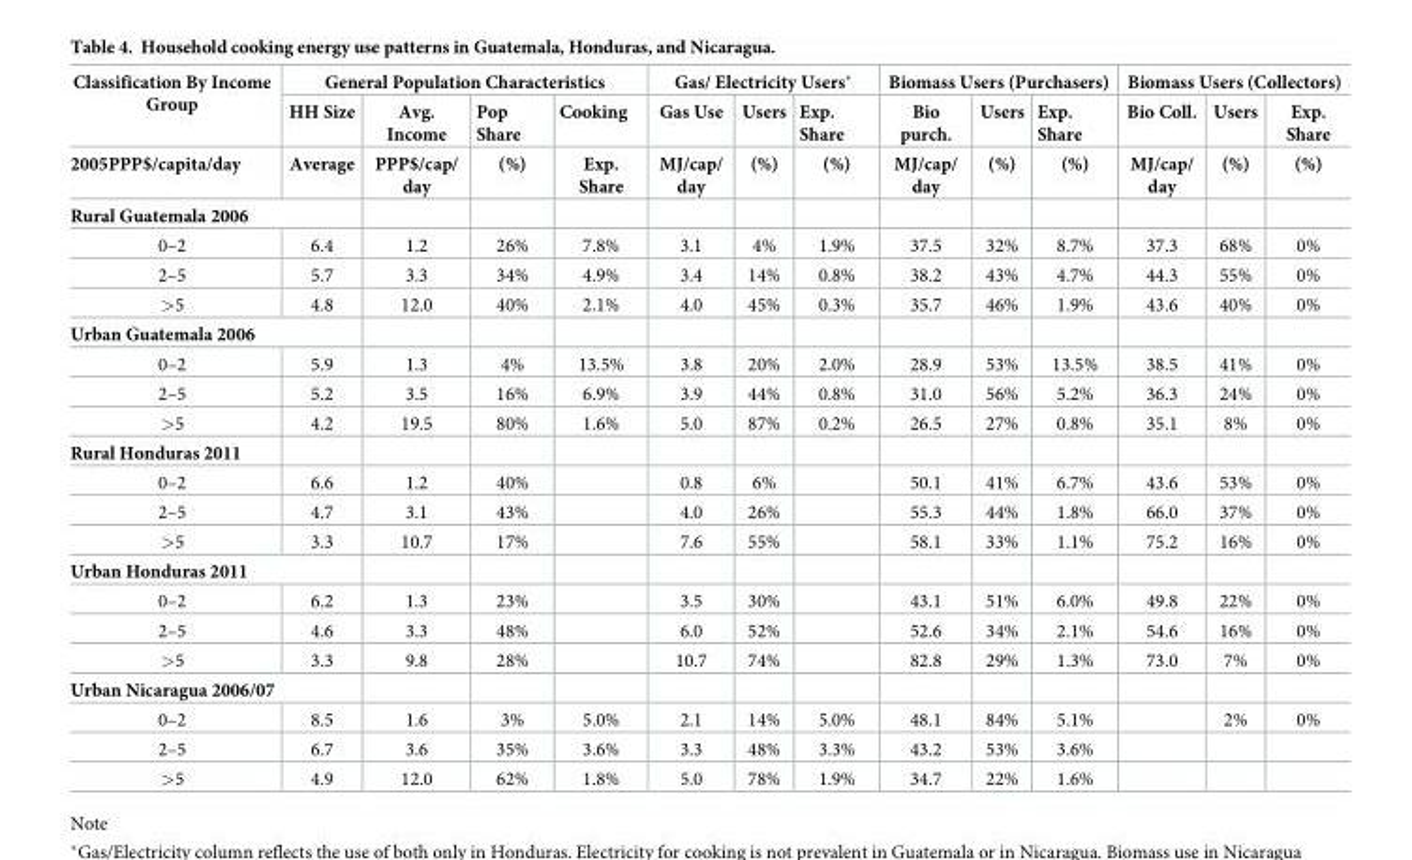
<table><thead><tr><td rowspan="3">Classification By Income Group 2005PPP$/capita/day</td><td colspan="4">General Population Characteristics</td><td colspan="3">Gas/ Electricity Users*</td><td colspan="3">Biomass Users (Purchasers)</td><td colspan="3">Biomass Users (Collectors)</td></tr><tr><td rowspan="2">HH Size Average</td><td rowspan="2">Avg. Income PPP$/cap/ day</td><td rowspan="2">Pop Share (%)</td><td rowspan="2">Cooking Exp. Share</td><td rowspan="2">Gas Use MJ/cap/ day</td><td rowspan="2">Users (%)</td><td rowspan="2">Exp. Share (%)</td><td rowspan="2">Bio purch. MJ/cap/ day</td><td rowspan="2">Users (%)</td><td rowspan="2">Exp. Share (%)</td><td rowspan="2">Bio Coll. MJ/cap/ day</td><td rowspan="2">Users (%)</td><td rowspan="2">Exp. Share (%)</td></tr><tr></tr></thead><tbody><tr><td colspan="14">Rural Guatemala 2006</td></tr><tr><td>0–2</td><td>6.4</td><td>1.2</td><td>26%</td><td>7.8%</td><td>3.1</td><td>4%</td><td>1.9%</td><td>37.5</td><td>32%</td><td>8.7%</td><td>37.3</td><td>68%</td><td>0%</td></tr><tr><td>2–5</td><td>5.7</td><td>3.3</td><td>34%</td><td>4.9%</td><td>3.4</td><td>14%</td><td>0.8%</td><td>38.2</td><td>43%</td><td>4.7%</td><td>44.3</td><td>55%</td><td>0%</td></tr><tr><td>&gt;5</td><td>4.8</td><td>12.0</td><td>40%</td><td>2.1%</td><td>4.0</td><td>45%</td><td>0.3%</td><td>35.7</td><td>46%</td><td>1.9%</td><td>43.6</td><td>40%</td><td>0%</td></tr><tr><td colspan="14">Urban Guatemala 2006</td></tr><tr><td>0–2</td><td>5.9</td><td>1.3</td><td>4%</td><td>13.5%</td><td>3.8</td><td>20%</td><td>2.0%</td><td>28.9</td><td>53%</td><td>13.5%</td><td>38.5</td><td>41%</td><td>0%</td></tr><tr><td>2–5</td><td>5.2</td><td>3.5</td><td>16%</td><td>6.9%</td><td>3.9</td><td>44%</td><td>0.8%</td><td>31.0</td><td>56%</td><td>5.2%</td><td>36.3</td><td>24%</td><td>0%</td></tr><tr><td>&gt;5</td><td>4.2</td><td>19.5</td><td>80%</td><td>1.6%</td><td>5.0</td><td>87%</td><td>0.2%</td><td>26.5</td><td>27%</td><td>0.8%</td><td>35.1</td><td>8%</td><td>0%</td></tr><tr><td colspan="14">Rural Honduras 2011</td></tr><tr><td>0–2</td><td>6.6</td><td>1.2</td><td>40%</td><td></td><td>0.8</td><td>6%</td><td></td><td>50.1</td><td>41%</td><td>6.7%</td><td>43.6</td><td>53%</td><td>0%</td></tr><tr><td>2–5</td><td>4.7</td><td>3.1</td><td>43%</td><td></td><td>4.0</td><td>26%</td><td></td><td>55.3</td><td>44%</td><td>1.8%</td><td>66.0</td><td>37%</td><td>0%</td></tr><tr><td>&gt;5</td><td>3.3</td><td>10.7</td><td>17%</td><td></td><td>7.6</td><td>55%</td><td></td><td>58.1</td><td>33%</td><td>1.1%</td><td>75.2</td><td>16%</td><td>0%</td></tr><tr><td colspan="14">Urban Honduras 2011</td></tr><tr><td>0–2</td><td>6.2</td><td>1.3</td><td>23%</td><td></td><td>3.5</td><td>30%</td><td></td><td>43.1</td><td>51%</td><td>6.0%</td><td>49.8</td><td>22%</td><td>0%</td></tr><tr><td>2–5</td><td>4.6</td><td>3.3</td><td>48%</td><td></td><td>6.0</td><td>52%</td><td></td><td>52.6</td><td>34%</td><td>2.1%</td><td>54.6</td><td>16%</td><td>0%</td></tr><tr><td>&gt;5</td><td>3.3</td><td>9.8</td><td>28%</td><td></td><td>10.7</td><td>74%</td><td></td><td>82.8</td><td>29%</td><td>1.3%</td><td>73.0</td><td>7%</td><td>0%</td></tr><tr><td colspan="14">Urban Nicaragua 2006/07</td></tr><tr><td>0–2</td><td>8.5</td><td>1.6</td><td>3%</td><td>5.0%</td><td>2.1</td><td>14%</td><td>5.0%</td><td>48.1</td><td>84%</td><td>5.1%</td><td></td><td>2%</td><td>0%</td></tr><tr><td>2–5</td><td>6.7</td><td>3.6</td><td>35%</td><td>3.6%</td><td>3.3</td><td>48%</td><td>3.3%</td><td>43.2</td><td>53%</td><td>3.6%</td><td></td><td></td><td></td></tr><tr><td>&gt;5</td><td>4.9</td><td>12.0</td><td>62%</td><td>1.8%</td><td>5.0</td><td>78%</td><td>1.9%</td><td>34.7</td><td>22%</td><td>1.6%</td><td></td><td></td><td></td></tr></tbody></table>